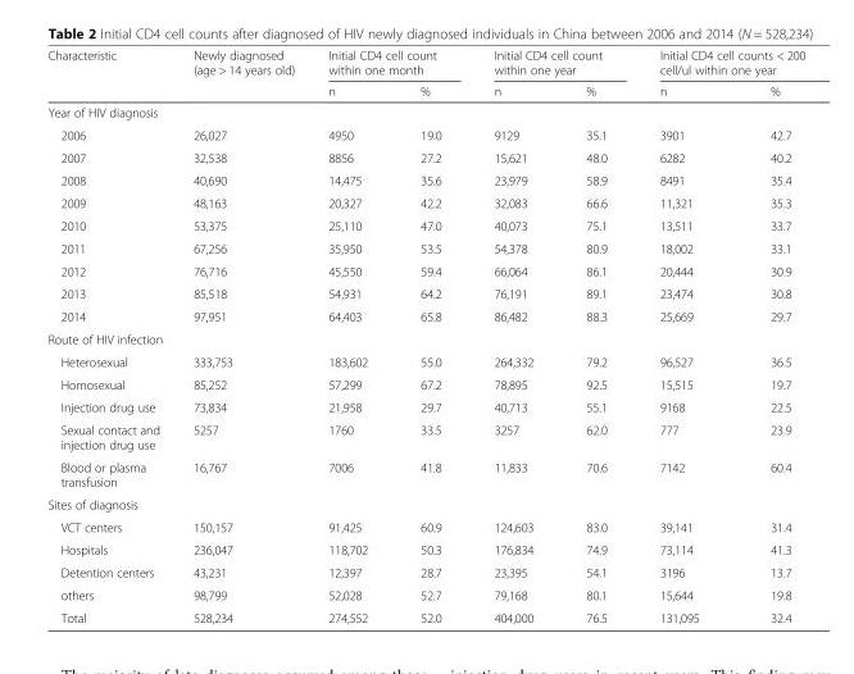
<table><thead><tr><td rowspan="2">Characteristic</td><td rowspan="2">Newly diagnosed (age &gt; 14 years old)</td><td colspan="2">Initial CD4 cell count within one month</td><td colspan="2">Initial CD4 cell count within one year</td><td colspan="2">Initial CD4 cell counts &lt; 200 cell/ul within one year</td></tr><tr><td>n</td><td>%</td><td>n</td><td>%</td><td>n</td><td>%</td></tr></thead><tbody><tr><td colspan="8">Year of HIV diagnosis</td></tr><tr><td>2006</td><td>26,027</td><td>4950</td><td>19.0</td><td>9129</td><td>35.1</td><td>3901</td><td>42.7</td></tr><tr><td>2007</td><td>32,538</td><td>8856</td><td>27.2</td><td>15,621</td><td>48.0</td><td>6282</td><td>40.2</td></tr><tr><td>2008</td><td>40,690</td><td>14,475</td><td>35.6</td><td>23,979</td><td>58.9</td><td>8491</td><td>35.4</td></tr><tr><td>2009</td><td>48,163</td><td>20,327</td><td>42.2</td><td>32,083</td><td>66.6</td><td>11,321</td><td>35.3</td></tr><tr><td>2010</td><td>53,375</td><td>25,110</td><td>47.0</td><td>40,073</td><td>75.1</td><td>13,511</td><td>33.7</td></tr><tr><td>2011</td><td>67,256</td><td>35,950</td><td>53.5</td><td>54,378</td><td>80.9</td><td>18,002</td><td>33.1</td></tr><tr><td>2012</td><td>76,716</td><td>45,550</td><td>59.4</td><td>66,064</td><td>86.1</td><td>20,444</td><td>30.9</td></tr><tr><td>2013</td><td>85,518</td><td>54,931</td><td>64.2</td><td>76,191</td><td>89.1</td><td>23,474</td><td>30.8</td></tr><tr><td>2014</td><td>97,951</td><td>64,403</td><td>65.8</td><td>86,482</td><td>88.3</td><td>25,669</td><td>29.7</td></tr><tr><td colspan="8">Route of HIV infection</td></tr><tr><td>Heterosexual</td><td>333,753</td><td>183,602</td><td>55.0</td><td>264,332</td><td>79.2</td><td>96,527</td><td>36.5</td></tr><tr><td>Homosexual</td><td>85,252</td><td>57,299</td><td>67.2</td><td>78,895</td><td>92.5</td><td>15,515</td><td>19.7</td></tr><tr><td>Injection drug use</td><td>73,834</td><td>21,958</td><td>29.7</td><td>40,713</td><td>55.1</td><td>9168</td><td>22.5</td></tr><tr><td>Sexual contact and injection drug use</td><td>5257</td><td>1760</td><td>33.5</td><td>3257</td><td>62.0</td><td>777</td><td>23.9</td></tr><tr><td>Blood or plasma transfusion</td><td>16,767</td><td>7006</td><td>41.8</td><td>11,833</td><td>70.6</td><td>7142</td><td>60.4</td></tr><tr><td colspan="8">Sites of diagnosis</td></tr><tr><td>VCT centers</td><td>150,157</td><td>91,425</td><td>60.9</td><td>124,603</td><td>83.0</td><td>39,141</td><td>31.4</td></tr><tr><td>Hospitals</td><td>236,047</td><td>118,702</td><td>50.3</td><td>176,834</td><td>74.9</td><td>73,114</td><td>41.3</td></tr><tr><td>Detention centers</td><td>43,231</td><td>12,397</td><td>28.7</td><td>23,395</td><td>54.1</td><td>3196</td><td>13.7</td></tr><tr><td>others</td><td>98,799</td><td>52,028</td><td>52.7</td><td>79,168</td><td>80.1</td><td>15,644</td><td>19.8</td></tr><tr><td>Total</td><td>528,234</td><td>274,552</td><td>52.0</td><td>404,000</td><td>76.5</td><td>131,095</td><td>32.4</td></tr></tbody></table>